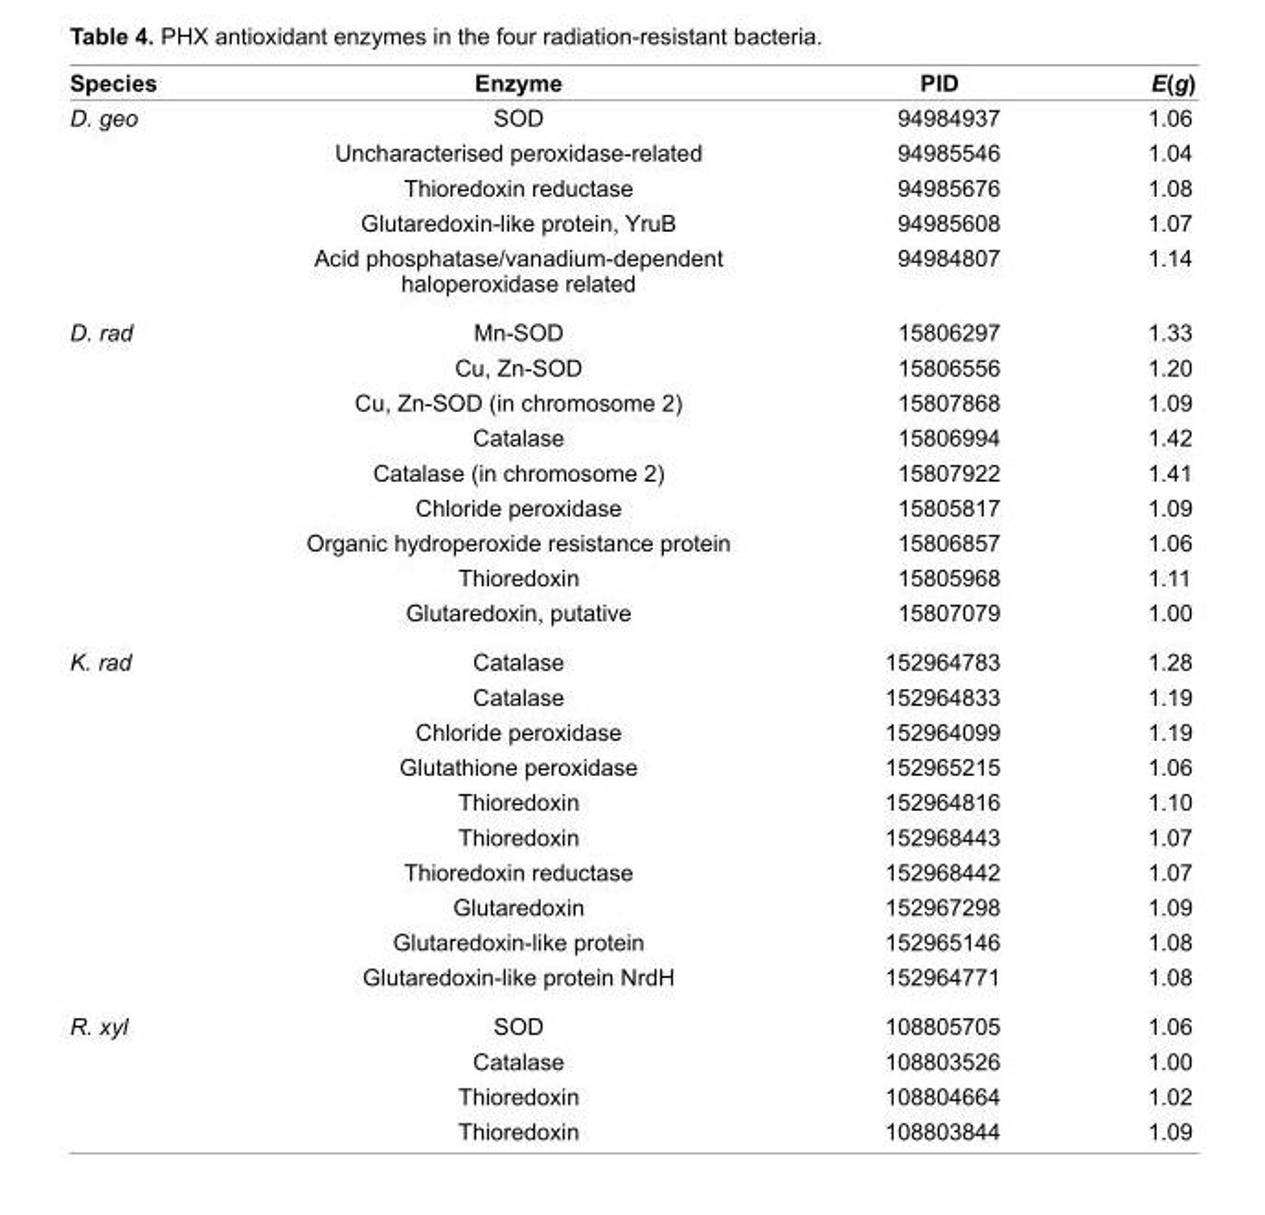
<table><thead><tr><td>Species</td><td>Enzyme</td><td>PID</td><td>E(g)</td></tr></thead><tbody><tr><td rowspan="5">D. geo</td><td>sOD</td><td>94984937</td><td>1.06</td></tr><tr><td>Uncharacterised peroxidase-related</td><td>94985546</td><td>1.04</td></tr><tr><td>Thioredoxin reductase</td><td>94985676</td><td>1.08</td></tr><tr><td>glutaredoxin-like protein, YruB</td><td>94985608</td><td>1.07</td></tr><tr><td>acid phosphatase/vanadium-dependent haloperoxidase related</td><td>94984807</td><td>1.14</td></tr><tr><td rowspan="9">D. rad</td><td>Mn-sOD</td><td>15806297</td><td>1.33</td></tr><tr><td>cu, Zn-sOD</td><td>15806556</td><td>1.20</td></tr><tr><td>cu, Zn-sOD (in chromosome 2)</td><td>15807868</td><td>1.09</td></tr><tr><td>catalase</td><td>15806994</td><td>1.42</td></tr><tr><td>catalase (in chromosome 2)</td><td>15807922</td><td>1.41</td></tr><tr><td>chloride peroxidase</td><td>15805817</td><td>1.09</td></tr><tr><td>Organic hydroperoxide resistance protein</td><td>15806857</td><td>1.06</td></tr><tr><td>Thioredoxin</td><td>15805968</td><td>1.11</td></tr><tr><td>glutaredoxin, putative</td><td>15807079</td><td>1.00</td></tr><tr><td rowspan="10">K. rad</td><td>catalase</td><td>152964783</td><td>1.28</td></tr><tr><td>catalase</td><td>152964833</td><td>1.19</td></tr><tr><td>chloride peroxidase</td><td>152964099</td><td>1.19</td></tr><tr><td>glutathione peroxidase</td><td>152965215</td><td>1.06</td></tr><tr><td>Thioredoxin</td><td>152964816</td><td>1.10</td></tr><tr><td>Thioredoxin</td><td>152968443</td><td>1.07</td></tr><tr><td>Thioredoxin reductase</td><td>152968442</td><td>1.07</td></tr><tr><td>glutaredoxin</td><td>152967298</td><td>1.09</td></tr><tr><td>glutaredoxin-like protein</td><td>152965146</td><td>1.08</td></tr><tr><td>glutaredoxin-like protein nrdh</td><td>152964771</td><td>1.08</td></tr><tr><td rowspan="4">R. xyl</td><td>sOD</td><td>108805705</td><td>1.06</td></tr><tr><td>catalase</td><td>108803526</td><td>1.00</td></tr><tr><td>Thioredoxin</td><td>108804664</td><td>1.02</td></tr><tr><td>Thioredoxin</td><td>108803844</td><td>1.09</td></tr></tbody></table>